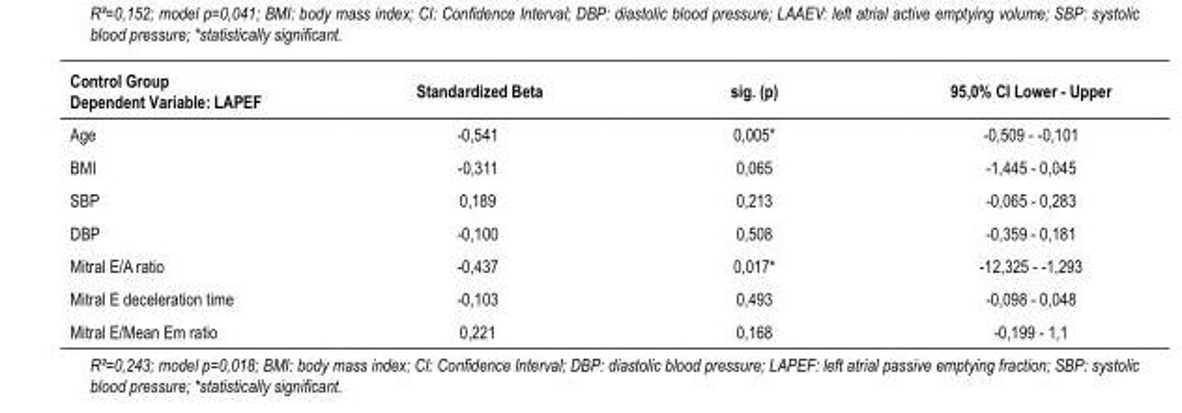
<table><thead><tr><td>Control Group Dependent Variable: LAPEF</td><td>Standardized Beta</td><td>sig. (p)</td><td>95,0% CI Lower - Upper</td></tr></thead><tbody><tr><td>Age</td><td>-0,541</td><td>0,005*</td><td>-0,509 - -0,101</td></tr><tr><td>BMI</td><td>-0,311</td><td>0,065</td><td>-1,445 - 0,045</td></tr><tr><td>SBP</td><td>0,189</td><td>0,213</td><td>-0,065 - 0,283</td></tr><tr><td>DBP</td><td>-0,100</td><td>0,508</td><td>-0,359 - 0,181</td></tr><tr><td>Mitral E/A ratio</td><td>-0,437</td><td>0,017*</td><td>-12,325 - -1,293</td></tr><tr><td>Mitral E deceleration time</td><td>-0,103</td><td>0,493</td><td>-0,098 - 0,048</td></tr><tr><td>Mitral E/Mean Em ratio</td><td>0,221</td><td>0,168</td><td>-0,199 - 1,1</td></tr></tbody></table>